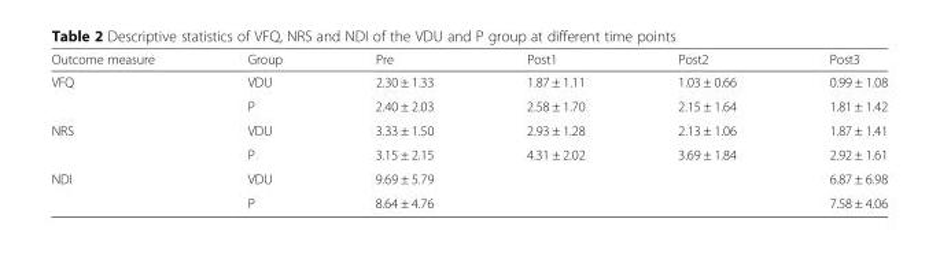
<table><thead><tr><td>Outcome measure</td><td>Group</td><td>Pre</td><td>Post1</td><td>Post2</td><td>Post3</td></tr></thead><tbody><tr><td rowspan="2">VFQ</td><td>VDU</td><td>2.30 ± 1.33</td><td>1.87 ± 1.11</td><td>1.03 ± 0.66</td><td>0.99 ± 1.08</td></tr><tr><td>P</td><td>2.40 ± 2.03</td><td>2.58 ± 1.70</td><td>2.15 ± 1.64</td><td>1.81 ± 1.42</td></tr><tr><td rowspan="2">NRS</td><td>VDU</td><td>3.33 ± 1.50</td><td>2.93 ± 1.28</td><td>2.13 ± 1.06</td><td>1.87 ± 1.41</td></tr><tr><td>P</td><td>3.15 ± 2.15</td><td>4.31 ± 2.02</td><td>3.69 ± 1.84</td><td>2.92 ± 1.61</td></tr><tr><td rowspan="2">NDI</td><td>VDU</td><td>9.69 ± 5.79</td><td></td><td></td><td>6.87 ± 6.98</td></tr><tr><td>P</td><td>8.64 ± 4.76</td><td></td><td></td><td>7.58 ± 4.06</td></tr></tbody></table>